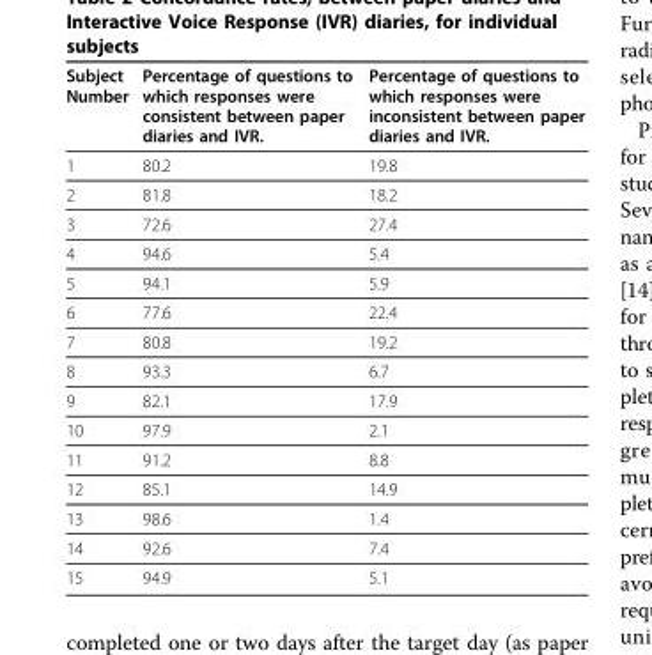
<table><thead><tr><td>Subject Number</td><td>Percentage of questions to which responses were consistent between paper diaries and IVR.</td><td>Percentage of questions to which responses were inconsistent between paper diaries and IVR.</td></tr></thead><tbody><tr><td>1</td><td>80.2</td><td>19.8</td></tr><tr><td>2</td><td>81.8</td><td>18.2</td></tr><tr><td>3</td><td>72.6</td><td>27.4</td></tr><tr><td>4</td><td>94.6</td><td>5.4</td></tr><tr><td>5</td><td>94.1</td><td>5.9</td></tr><tr><td>6</td><td>77.6</td><td>22.4</td></tr><tr><td>7</td><td>80.8</td><td>19.2</td></tr><tr><td>8</td><td>93.3</td><td>6.7</td></tr><tr><td>9</td><td>82.1</td><td>17.9</td></tr><tr><td>10</td><td>97.9</td><td>2.1</td></tr><tr><td>11</td><td>91.2</td><td>8.8</td></tr><tr><td>12</td><td>85.1</td><td>14.9</td></tr><tr><td>13</td><td>98.6</td><td>1.4</td></tr><tr><td>14</td><td>92.6</td><td>7.4</td></tr><tr><td>15</td><td>94.9</td><td>5.1</td></tr></tbody></table>